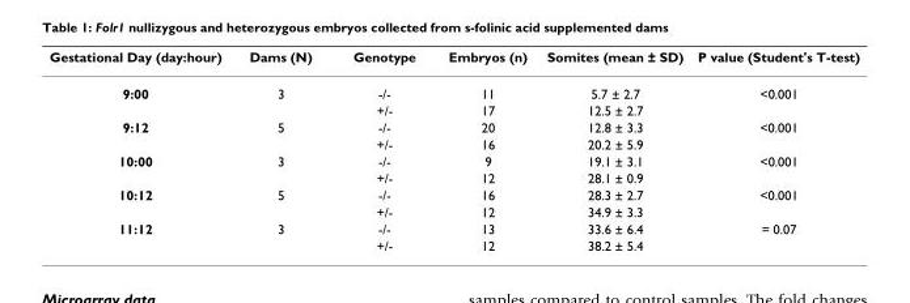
<table><thead><tr><td>Gestational Day (day:hour)</td><td>Dams (N)</td><td>Genotype</td><td>Embryos (n)</td><td>Somites (mean ± SD)</td><td>P value (Student&#x27;s T-test)</td></tr></thead><tbody><tr><td rowspan="2">9:00</td><td>3</td><td>-/-</td><td>11</td><td>5.7 ± 2.7</td><td>&lt;0.001</td></tr><tr><td></td><td>+/-</td><td>17</td><td>12.5 ± 2.7</td><td></td></tr><tr><td rowspan="2">9:12</td><td>5</td><td>-/-</td><td>20</td><td>12.8 ± 3.3</td><td>&lt;0.001</td></tr><tr><td></td><td>+/-</td><td>16</td><td>20.2 ± 5.9</td><td></td></tr><tr><td rowspan="2">10:00</td><td>3</td><td>-/-</td><td>9</td><td>19.1 ± 3.1</td><td>&lt;0.001</td></tr><tr><td></td><td>+/-</td><td>12</td><td>28.1 ± 0.9</td><td></td></tr><tr><td rowspan="2">10:12</td><td>5</td><td>-/-</td><td>16</td><td>28.3 ± 2.7</td><td>&lt;0.001</td></tr><tr><td></td><td>+/-</td><td>12</td><td>34.9 ± 3.3</td><td></td></tr><tr><td rowspan="2">11:12</td><td>3</td><td>-/-</td><td>13</td><td>33.6 ± 6.4</td><td>= 0.07</td></tr><tr><td></td><td>+/-</td><td>12</td><td>38.2 ± 5.4</td><td></td></tr></tbody></table>